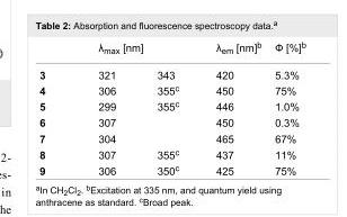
<table><thead><tr><td rowspan="2">3</td><td colspan="2">λmax [nm]</td><td rowspan="2">λem [nm]b 420</td><td rowspan="2">Ф [%]b 5.3%</td></tr><tr><td>321</td><td>343</td></tr></thead><tbody><tr><td>4</td><td>306</td><td>355<sup>c</sup></td><td>450</td><td>75%</td></tr><tr><td>5</td><td>299</td><td>355<sup>c</sup></td><td>446</td><td>1.0%</td></tr><tr><td>6</td><td>307</td><td></td><td>450</td><td>0.3%</td></tr><tr><td>7</td><td>304</td><td></td><td>465</td><td>67%</td></tr><tr><td>8</td><td>307</td><td>355<sup>c</sup></td><td>437</td><td>11%</td></tr><tr><td>9</td><td>306</td><td>350<sup>c</sup></td><td>425</td><td>75%</td></tr></tbody></table>